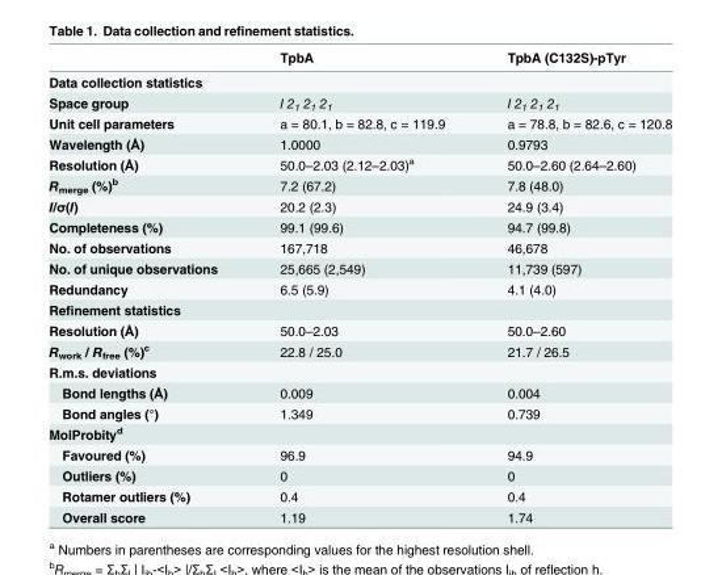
<table><thead><tr><td></td><td>TpbA</td><td>TpbA (C132S)-pTyr</td></tr></thead><tbody><tr><td colspan="3">Data collection statistics</td></tr><tr><td>Space group</td><td>I 2<sub>1</sub> 2<sub>1</sub> 2<sub>1</sub></td><td>I 2<sub>1</sub> 2<sub>1</sub> 2<sub>1</sub></td></tr><tr><td>Unit cell parameters</td><td>a = 80.1, b = 82.8, c = 119.9</td><td>a = 78.8, b = 82.6, c = 120.8</td></tr><tr><td>Wavelength (Å)</td><td>1.0000</td><td>0.9793</td></tr><tr><td>Resolution (Å)</td><td>50.0–2.03 (2.12–2.03)<sup>a</sup></td><td>50.0–2.60 (2.64–2.60)</td></tr><tr><td>R<sub>merge</sub> (%)<sup>b</sup></td><td>7.2 (67.2)</td><td>7.8 (48.0)</td></tr><tr><td>I/σ(I)</td><td>20.2 (2.3)</td><td>24.9 (3.4)</td></tr><tr><td>Completeness (%)</td><td>99.1 (99.6)</td><td>94.7 (99.8)</td></tr><tr><td>No. of observations</td><td>167,718</td><td>46,678</td></tr><tr><td>No. of unique observations</td><td>25,665 (2,549)</td><td>11,739 (597)</td></tr><tr><td>Redundancy</td><td>6.5 (5.9)</td><td>4.1 (4.0)</td></tr><tr><td colspan="3">Refinement statistics</td></tr><tr><td>Resolution (Å)</td><td>50.0–2.03</td><td>50.0–2.60</td></tr><tr><td>R<sub>work</sub> / R<sub>free</sub> (%)<sup>c</sup></td><td>22.8 / 25.0</td><td>21.7 / 26.5</td></tr><tr><td colspan="3">R.m.s. deviations</td></tr><tr><td>Bond lengths (Å)</td><td>0.009</td><td>0.004</td></tr><tr><td>Bond angles (°)</td><td>1.349</td><td>0.739</td></tr><tr><td colspan="3">MolProbity<sup>d</sup></td></tr><tr><td>Favoured (%)</td><td>96.9</td><td>94.9</td></tr><tr><td>Outliers (%)</td><td>0</td><td>0</td></tr><tr><td>Rotamer outliers (%)</td><td>0.4</td><td>0.4</td></tr><tr><td>Overall score</td><td>1.19</td><td>1.74</td></tr></tbody></table>